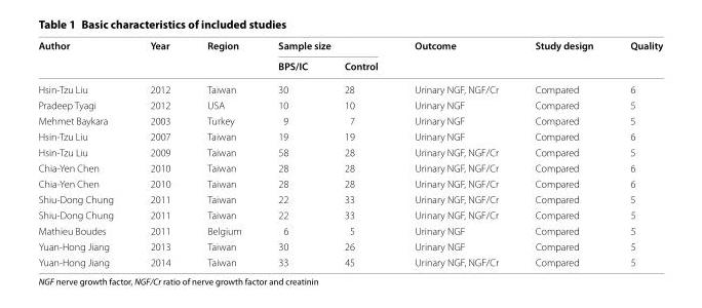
<table><thead><tr><td rowspan="2">Author</td><td rowspan="2">Year</td><td rowspan="2">Region</td><td colspan="2">Sample size</td><td rowspan="2">Outcome</td><td rowspan="2">Study design</td><td rowspan="2">Quality</td></tr><tr><td>BPS/IC</td><td>Control</td></tr></thead><tbody><tr><td>Hsin‑Tzu Liu</td><td>2012</td><td>Taiwan</td><td>30</td><td>28</td><td>Urinary NGF, NGF/Cr</td><td>Compared</td><td>6</td></tr><tr><td>Pradeep Tyagi</td><td>2012</td><td>USA</td><td>10</td><td>10</td><td>Urinary NGF</td><td>Compared</td><td>5</td></tr><tr><td>Mehmet Baykara</td><td>2003</td><td>Turkey</td><td>9</td><td>7</td><td>Urinary NGF</td><td>Compared</td><td>5</td></tr><tr><td>Hsin‑Tzu Liu</td><td>2007</td><td>Taiwan</td><td>19</td><td>19</td><td>Urinary NGF</td><td>Compared</td><td>6</td></tr><tr><td>Hsin‑Tzu Liu</td><td>2009</td><td>Taiwan</td><td>58</td><td>28</td><td>Urinary NGF, NGF/Cr</td><td>Compared</td><td>5</td></tr><tr><td>Chia‑Yen Chen</td><td>2010</td><td>Taiwan</td><td>28</td><td>28</td><td>Urinary NGF, NGF/Cr</td><td>Compared</td><td>6</td></tr><tr><td>Chia‑Yen Chen</td><td>2010</td><td>Taiwan</td><td>28</td><td>28</td><td>Urinary NGF, NGF/Cr</td><td>Compared</td><td>6</td></tr><tr><td>Shiu‑Dong Chung</td><td>2011</td><td>Taiwan</td><td>22</td><td>33</td><td>Urinary NGF, NGF/Cr</td><td>Compared</td><td>5</td></tr><tr><td>Shiu‑Dong Chung</td><td>2011</td><td>Taiwan</td><td>22</td><td>33</td><td>Urinary NGF, NGF/Cr</td><td>Compared</td><td>5</td></tr><tr><td>Mathieu Boudes</td><td>2011</td><td>Belgium</td><td>6</td><td>5</td><td>Urinary NGF</td><td>Compared</td><td>5</td></tr><tr><td>Yuan‑Hong Jiang</td><td>2013</td><td>Taiwan</td><td>30</td><td>26</td><td>Urinary NGF</td><td>Compared</td><td>5</td></tr><tr><td>Yuan‑Hong Jiang</td><td>2014</td><td>Taiwan</td><td>33</td><td>45</td><td>Urinary NGF, NGF/Cr</td><td>Compared</td><td>5</td></tr></tbody></table>